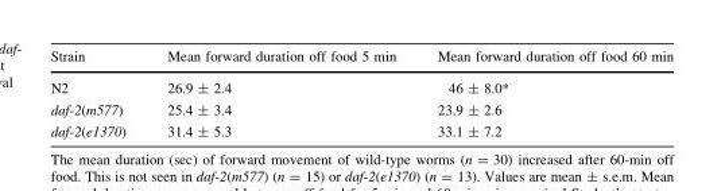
<table><thead><tr><td>Strain</td><td>Mean forward duration off food 5 min</td><td>Mean forward duration off food 60 min</td></tr></thead><tbody><tr><td>N2</td><td>26.9 ± 2.4</td><td>46 ± 8.0*</td></tr><tr><td>daf-2(m577)</td><td>25.4 ± 3.4</td><td>23.9 ± 2.6</td></tr><tr><td>daf-2(e1370)</td><td>31.4 ± 5.3</td><td>33.1 ± 7.2</td></tr></tbody></table>